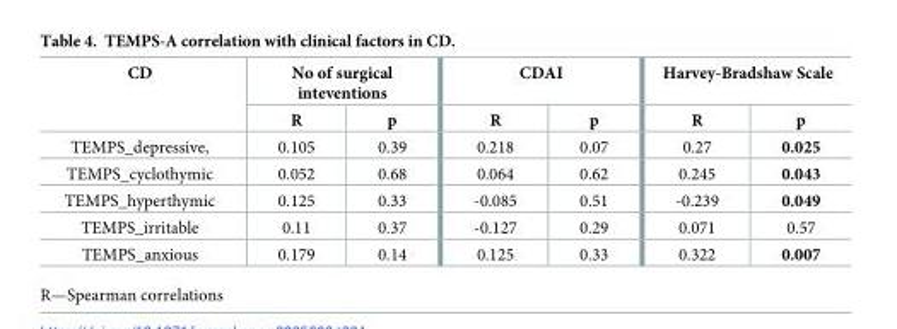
<table><thead><tr><td rowspan="2">CD</td><td colspan="2">No of surgical inteventions</td><td colspan="2">CDAI</td><td colspan="2">Harvey-Bradshaw Scale</td></tr><tr><td>R</td><td>p</td><td>R</td><td>p</td><td>R</td><td>p</td></tr></thead><tbody><tr><td>TEMPS_depressive,</td><td>0.105</td><td>0.39</td><td>0.218</td><td>0.07</td><td>0.27</td><td>0.025</td></tr><tr><td>TEMPS_cyclothymic</td><td>0.052</td><td>0.68</td><td>0.064</td><td>0.62</td><td>0.245</td><td>0.043</td></tr><tr><td>TEMPS_hyperthymic</td><td>0.125</td><td>0.33</td><td>-0.085</td><td>0.51</td><td>-0.239</td><td>0.049</td></tr><tr><td>TEMPS_irritable</td><td>0.11</td><td>0.37</td><td>-0.127</td><td>0.29</td><td>0.071</td><td>0.57</td></tr><tr><td>TEMPS_anxious</td><td>0.179</td><td>0.14</td><td>0.125</td><td>0.33</td><td>0.322</td><td>0.007</td></tr></tbody></table>